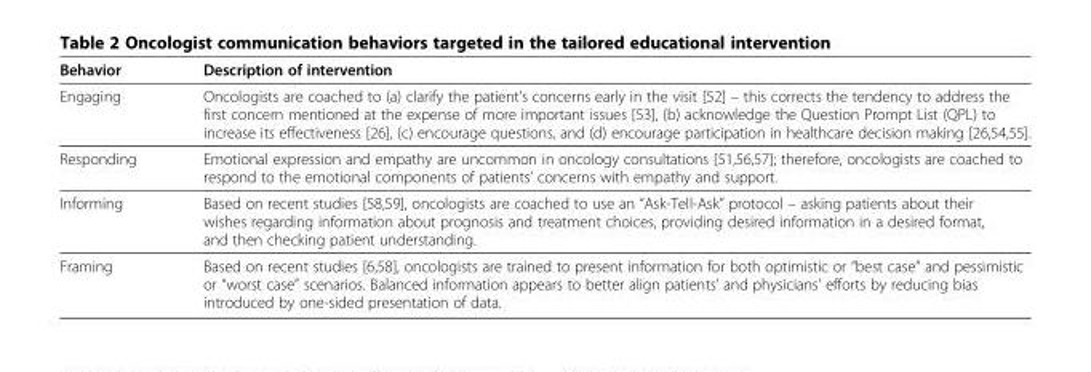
<table><thead><tr><td>Behavior</td><td>Description of intervention</td></tr></thead><tbody><tr><td>Engaging</td><td>Oncologists are coached to (a) clarify the patient’s concerns early in the visit [52] – this corrects the tendency to address the first concern mentioned at the expense of more important issues [53], (b) acknowledge the Question Prompt List (QPL) to increase its effectiveness [26], (c) encourage questions, and (d) encourage participation in healthcare decision making [26,54,55].</td></tr><tr><td>Responding</td><td>Emotional expression and empathy are uncommon in oncology consultations [51,56,57]; therefore, oncologists are coached to respond to the emotional components of patients’ concerns with empathy and support.</td></tr><tr><td>Informing</td><td>Based on recent studies [58,59], oncologists are coached to use an “Ask-Tell-Ask” protocol – asking patients about their wishes regarding information about prognosis and treatment choices, providing desired information in a desired format, and then checking patient understanding.</td></tr><tr><td>Framing</td><td>Based on recent studies [6,58], oncologists are trained to present information for both optimistic or “best case” and pessimistic or “worst case” scenarios. Balanced information appears to better align patients’ and physicians’ efforts by reducing bias introduced by one-sided presentation of data.</td></tr></tbody></table>